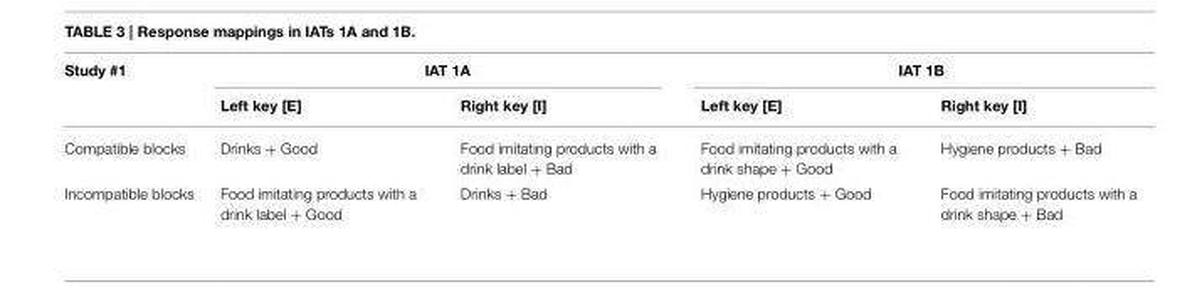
<table><thead><tr><td rowspan="2">Study #1</td><td colspan="2">IAT 1A</td><td colspan="2">IAT 1B</td></tr><tr><td>Left key [E]</td><td>Right key [I]</td><td>Left key [E]</td><td>Right key [I]</td></tr></thead><tbody><tr><td>Compatible blocks</td><td>Drinks + Good</td><td>Food imitating products with a drink label + Bad</td><td>Food imitating products with a drink shape + Good</td><td>Hygiene products + Bad</td></tr><tr><td>Incompatible blocks</td><td>Food imitating products with a drink label + Good</td><td>Drinks + Bad</td><td>Hygiene products + Good</td><td>Food imitating products with a drink shape + Bad</td></tr></tbody></table>